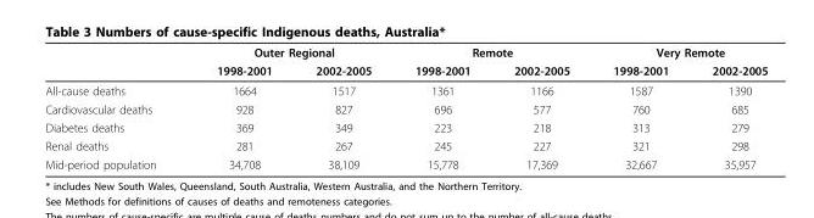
<table><thead><tr><td rowspan="2"></td><td colspan="2">Outer Regional</td><td colspan="2">Remote</td><td colspan="2">Very Remote</td></tr><tr><td>1998-2001</td><td>2002-2005</td><td>1998-2001</td><td>2002-2005</td><td>1998-2001</td><td>2002-2005</td></tr></thead><tbody><tr><td>All-cause deaths</td><td>1664</td><td>1517</td><td>1361</td><td>1166</td><td>1587</td><td>1390</td></tr><tr><td>Cardiovascular deaths</td><td>928</td><td>827</td><td>696</td><td>577</td><td>760</td><td>685</td></tr><tr><td>Diabetes deaths</td><td>369</td><td>349</td><td>223</td><td>218</td><td>313</td><td>279</td></tr><tr><td>Renal deaths</td><td>281</td><td>267</td><td>245</td><td>227</td><td>321</td><td>298</td></tr><tr><td>Mid-period population</td><td>34,708</td><td>38,109</td><td>15,778</td><td>17,369</td><td>32,667</td><td>35,957</td></tr></tbody></table>